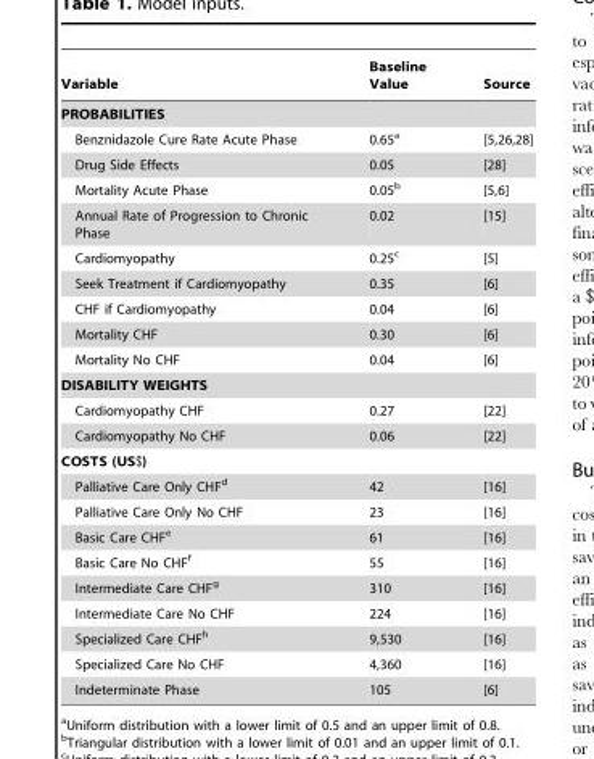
<table><thead><tr><td>Variable</td><td>Baseline Value</td><td>Source</td></tr></thead><tbody><tr><td colspan="3">PROBABILITIES</td></tr><tr><td>Benznidazole Cure Rate Acute Phase</td><td>0.65<sup>a</sup></td><td>[5,26,28]</td></tr><tr><td>Drug Side Effects</td><td>0.05</td><td>[28]</td></tr><tr><td>Mortality Acute Phase</td><td>0.05<sup>b</sup></td><td>[5,6]</td></tr><tr><td>Annual Rate of Progression to Chronic Phase</td><td>0.02</td><td>[15]</td></tr><tr><td>Cardiomyopathy</td><td>0.25<sup>c</sup></td><td>[5]</td></tr><tr><td>Seek Treatment if Cardiomyopathy</td><td>0.35</td><td>[6]</td></tr><tr><td>CHF if Cardiomyopathy</td><td>0.04</td><td>[6]</td></tr><tr><td>Mortality CHF</td><td>0.30</td><td>[6]</td></tr><tr><td>Mortality No CHF</td><td>0.04</td><td>[6]</td></tr><tr><td colspan="3">DISABILITY WEIGHTS</td></tr><tr><td>Cardiomyopathy CHF</td><td>0.27</td><td>[22]</td></tr><tr><td>Cardiomyopathy No CHF</td><td>0.06</td><td>[22]</td></tr><tr><td colspan="3">COSTS (US$)</td></tr><tr><td>Palliative Care Only CHF<sup>d</sup></td><td>42</td><td>[16]</td></tr><tr><td>Palliative Care Only No CHF</td><td>23</td><td>[16]</td></tr><tr><td>Basic Care CHF<sup>e</sup></td><td>61</td><td>[16]</td></tr><tr><td>Basic Care No CHF<sup>f</sup></td><td>55</td><td>[16]</td></tr><tr><td>Intermediate Care CHF<sup>g</sup></td><td>310</td><td>[16]</td></tr><tr><td>Intermediate Care No CHF</td><td>224</td><td>[16]</td></tr><tr><td>Specialized Care CHF<sup>h</sup></td><td>9,530</td><td>[16]</td></tr><tr><td>Specialized Care No CHF</td><td>4,360</td><td>[16]</td></tr><tr><td>Indeterminate Phase</td><td>105</td><td>[6]</td></tr></tbody></table>